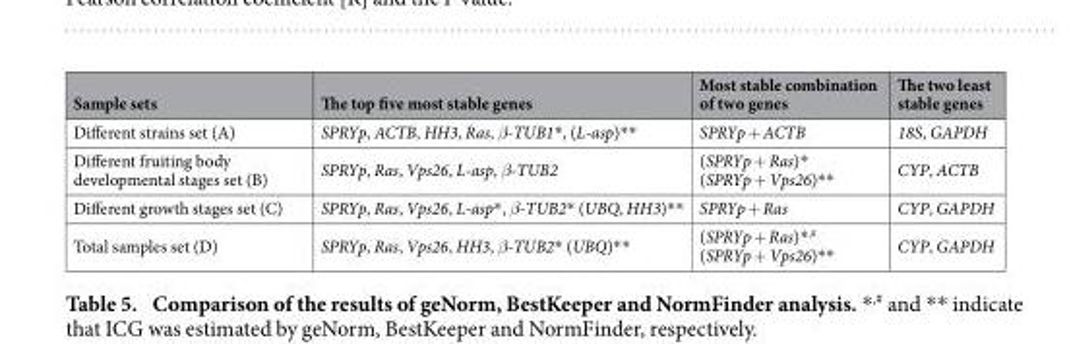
<table><thead><tr><td>Sample sets</td><td>The top five most stable genes</td><td>Most stable combination of two genes</td><td>The two least stable genes</td></tr></thead><tbody><tr><td>Different strains set (A)</td><td>SPRYp, ACTB, HH3, Ras, β-TUB1* , (L-asp)* *</td><td>SPRYp + ACTB</td><td>18S, GAPDH</td></tr><tr><td>Different fruiting body developmental stages set (B)</td><td>SPRYp, Ras, Vps26, L-asp, β-TUB2</td><td>(SPRYp + Ras)* (SPRYp + Vps26)* *</td><td>CYP, ACTB</td></tr><tr><td>Different growth stages set (C)</td><td>SPRYp, Ras, Vps26, L-asp* , β-TUB2* (UBQ, HH3)* *</td><td>SPRYp + Ras</td><td>CYP, GAPDH</td></tr><tr><td>Total samples set (D)</td><td>SPRYp, Ras, Vps26, HH3, β-TUB2* (UBQ)* *</td><td>(SPRYp + Ras)* <sup>,#</sup> (SPRYp + Vps26)* *</td><td>CYP, GAPDH</td></tr></tbody></table>